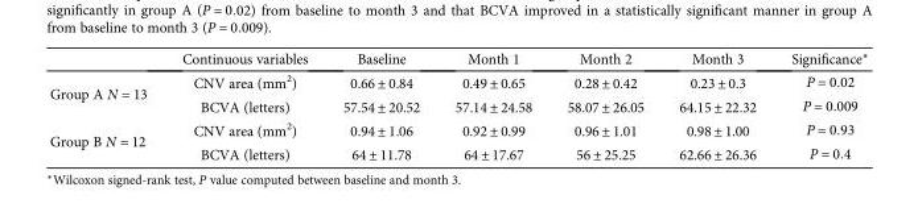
<table><thead><tr><td></td><td>Continuous variables</td><td>Baseline</td><td>Month 1</td><td>Month 2</td><td>Month 3</td><td>Significance∗</td></tr></thead><tbody><tr><td rowspan="2">Group A N = 13</td><td>CNV area (mm<sup>2</sup>)</td><td>0.66 ± 0.84</td><td>0.49 ± 0.65</td><td>0.28 ± 0.42</td><td>0.23 ± 0.3</td><td>P = 0 02</td></tr><tr><td>BCVA (letters)</td><td>57.54 ± 20.52</td><td>57.14 ± 24.58</td><td>58.07 ± 26.05</td><td>64.15 ± 22.32</td><td>P = 0 009</td></tr><tr><td rowspan="2">Group B N = 12</td><td>CNV area (mm<sup>2</sup>)</td><td>0.94 ± 1.06</td><td>0.92 ± 0.99</td><td>0.96 ± 1.01</td><td>0.98 ± 1.00</td><td>P = 0 93</td></tr><tr><td>BCVA (letters)</td><td>64 ± 11.78</td><td>64 ± 17.67</td><td>56 ± 25.25</td><td>62.66 ± 26.36</td><td>P = 0 4</td></tr></tbody></table>